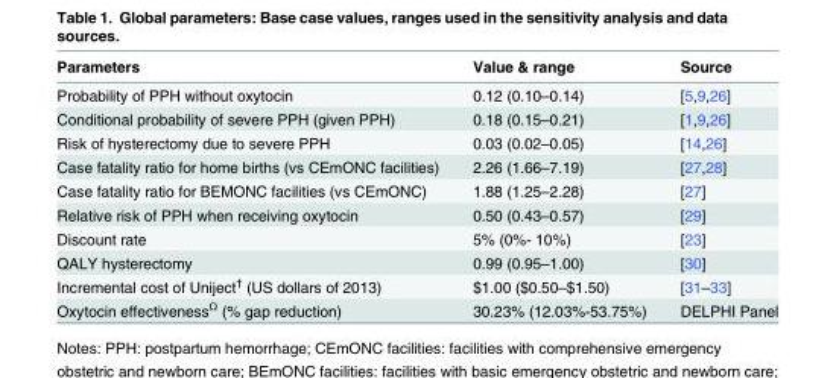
<table><thead><tr><td>Parameters</td><td>Value &amp; range</td><td>Source</td></tr></thead><tbody><tr><td>Probability of PPH without oxytocin</td><td>0.12 (0.10–0.14)</td><td>[5,9,26]</td></tr><tr><td>Conditional probability of severe PPH (given PPH)</td><td>0.18 (0.15–0.21)</td><td>[1,9,26]</td></tr><tr><td>Risk of hysterectomy due to severe PPH</td><td>0.03 (0.02–0.05)</td><td>[14,26]</td></tr><tr><td>Case fatality ratio for home births (vs CEmONC facilities)</td><td>2.26 (1.66–7.19)</td><td>[27,28]</td></tr><tr><td>Case fatality ratio for BEMONC facilities (vs CEmONC)</td><td>1.88 (1.25–2.28)</td><td>[27]</td></tr><tr><td>Relative risk of PPH when receiving oxytocin</td><td>0.50 (0.43–0.57)</td><td>[29]</td></tr><tr><td>Discount rate</td><td>5% (0%- 10%)</td><td>[23]</td></tr><tr><td>QALY hysterectomy</td><td>0.99 (0.95–1.00)</td><td>[30]</td></tr><tr><td>Incremental cost of Uniject<sup>†</sup> (US dollars of 2013)</td><td>$1.00 ($0.50–$1.50)</td><td>[31–33]</td></tr><tr><td>Oxytocin effectiveness<sup>Ω</sup> (% gap reduction)</td><td>30.23% (12.03%-53.75%)</td><td>DELPHI Panel</td></tr></tbody></table>